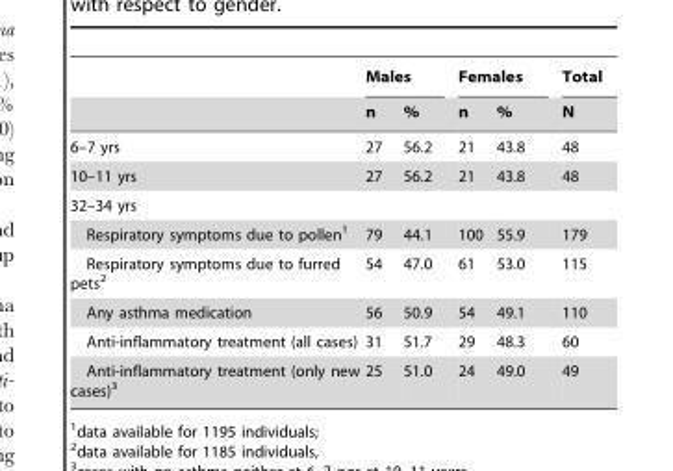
<table><thead><tr><td rowspan="2"></td><td colspan="2">Males</td><td colspan="2">Females</td><td rowspan="2">Total N</td></tr><tr><td>n</td><td>%</td><td>n</td><td>%</td></tr></thead><tbody><tr><td>6–7 yrs</td><td>27</td><td>56.2</td><td>21</td><td>43.8</td><td>48</td></tr><tr><td>10–11 yrs</td><td>27</td><td>56.2</td><td>21</td><td>43.8</td><td>48</td></tr><tr><td colspan="6">32–34 yrs</td></tr><tr><td>Respiratory symptoms due to pollen<sup>1</sup></td><td>79</td><td>44.1</td><td>100</td><td>55.9</td><td>179</td></tr><tr><td>Respiratory symptoms due to furred pets<sup>2</sup></td><td>54</td><td>47.0</td><td>61</td><td>53.0</td><td>115</td></tr><tr><td>Any asthma medication</td><td>56</td><td>50.9</td><td>54</td><td>49.1</td><td>110</td></tr><tr><td>Anti-inflammatory treatment (all cases)</td><td>31</td><td>51.7</td><td>29</td><td>48.3</td><td>60</td></tr><tr><td>Anti-inflammatory treatment (only new cases)<sup>3</sup></td><td>25</td><td>51.0</td><td>24</td><td>49.0</td><td>49</td></tr></tbody></table>